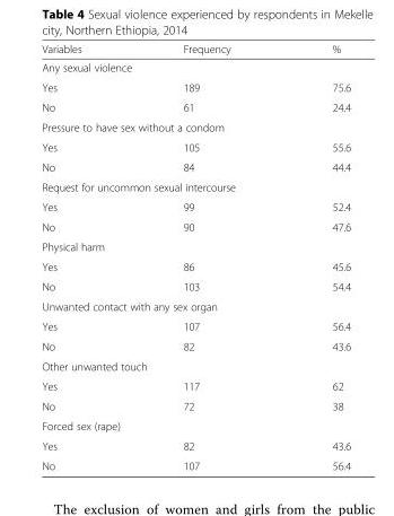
<table><thead><tr><td>Variables</td><td>Frequency</td><td>%</td></tr></thead><tbody><tr><td colspan="3">Any sexual violence</td></tr><tr><td>Yes</td><td>189</td><td>75.6</td></tr><tr><td>No</td><td>61</td><td>24.4</td></tr><tr><td colspan="3">Pressure to have sex without a condom</td></tr><tr><td>Yes</td><td>105</td><td>55.6</td></tr><tr><td>No</td><td>84</td><td>44.4</td></tr><tr><td colspan="3">Request for uncommon sexual intercourse</td></tr><tr><td>Yes</td><td>99</td><td>52.4</td></tr><tr><td>No</td><td>90</td><td>47.6</td></tr><tr><td colspan="3">Physical harm</td></tr><tr><td>Yes</td><td>86</td><td>45.6</td></tr><tr><td>No</td><td>103</td><td>54.4</td></tr><tr><td colspan="3">Unwanted contact with any sex organ</td></tr><tr><td>Yes</td><td>107</td><td>56.4</td></tr><tr><td>No</td><td>82</td><td>43.6</td></tr><tr><td colspan="3">Other unwanted touch</td></tr><tr><td>Yes</td><td>117</td><td>62</td></tr><tr><td>No</td><td>72</td><td>38</td></tr><tr><td colspan="3">Forced sex (rape)</td></tr><tr><td>Yes</td><td>82</td><td>43.6</td></tr><tr><td>No</td><td>107</td><td>56.4</td></tr></tbody></table>